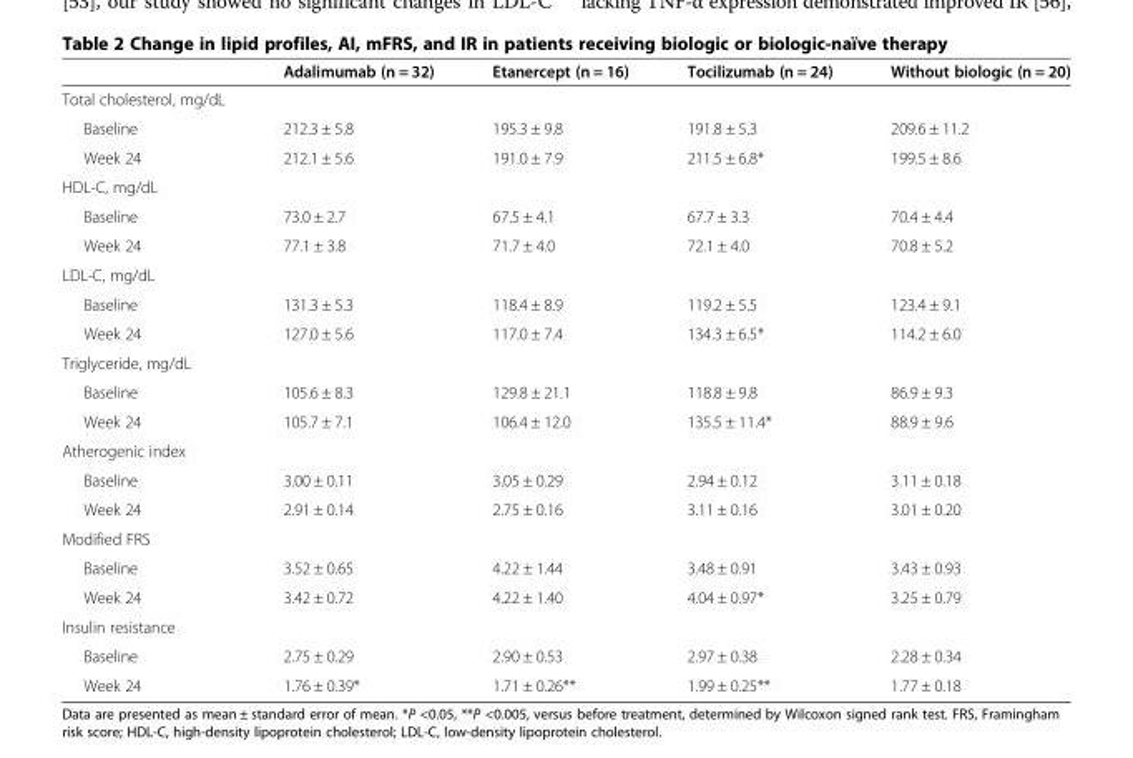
<table><thead><tr><td></td><td>Adalimumab (n = 32)</td><td>Etanercept (n = 16)</td><td>Tocilizumab (n = 24)</td><td>Without biologic (n = 20)</td></tr></thead><tbody><tr><td colspan="5">Total cholesterol, mg/dL</td></tr><tr><td>Baseline</td><td>212.3 ± 5.8</td><td>195.3 ± 9.8</td><td>191.8 ± 5.3</td><td>209.6 ± 11.2</td></tr><tr><td>Week 24</td><td>212.1 ± 5.6</td><td>191.0 ± 7.9</td><td>211.5 ± 6.8*</td><td>199.5 ± 8.6</td></tr><tr><td colspan="5">HDL-C, mg/dL</td></tr><tr><td>Baseline</td><td>73.0 ± 2.7</td><td>67.5 ± 4.1</td><td>67.7 ± 3.3</td><td>70.4 ± 4.4</td></tr><tr><td>Week 24</td><td>77.1 ± 3.8</td><td>71.7 ± 4.0</td><td>72.1 ± 4.0</td><td>70.8 ± 5.2</td></tr><tr><td colspan="5">LDL-C, mg/dL</td></tr><tr><td>Baseline</td><td>131.3 ± 5.3</td><td>118.4 ± 8.9</td><td>119.2 ± 5.5</td><td>123.4 ± 9.1</td></tr><tr><td>Week 24</td><td>127.0 ± 5.6</td><td>117.0 ± 7.4</td><td>134.3 ± 6.5*</td><td>114.2 ± 6.0</td></tr><tr><td colspan="5">Triglyceride, mg/dL</td></tr><tr><td>Baseline</td><td>105.6 ± 8.3</td><td>129.8 ± 21.1</td><td>118.8 ± 9.8</td><td>86.9 ± 9.3</td></tr><tr><td>Week 24</td><td>105.7 ± 7.1</td><td>106.4 ± 12.0</td><td>135.5 ± 11.4*</td><td>88.9 ± 9.6</td></tr><tr><td colspan="5">Atherogenic index</td></tr><tr><td>Baseline</td><td>3.00 ± 0.11</td><td>3.05 ± 0.29</td><td>2.94 ± 0.12</td><td>3.11 ± 0.18</td></tr><tr><td>Week 24</td><td>2.91 ± 0.14</td><td>2.75 ± 0.16</td><td>3.11 ± 0.16</td><td>3.01 ± 0.20</td></tr><tr><td colspan="5">Modified FRS</td></tr><tr><td>Baseline</td><td>3.52 ± 0.65</td><td>4.22 ± 1.44</td><td>3.48 ± 0.91</td><td>3.43 ± 0.93</td></tr><tr><td>Week 24</td><td>3.42 ± 0.72</td><td>4.22 ± 1.40</td><td>4.04 ± 0.97*</td><td>3.25 ± 0.79</td></tr><tr><td colspan="5">Insulin resistance</td></tr><tr><td>Baseline</td><td>2.75 ± 0.29</td><td>2.90 ± 0.53</td><td>2.97 ± 0.38</td><td>2.28 ± 0.34</td></tr><tr><td>Week 24</td><td>1.76 ± 0.39*</td><td>1.71 ± 0.26**</td><td>1.99 ± 0.25**</td><td>1.77 ± 0.18</td></tr></tbody></table>